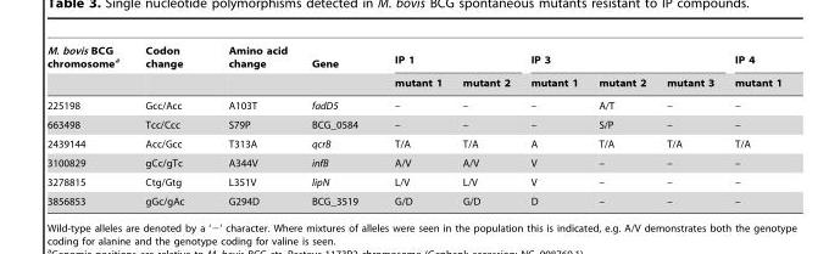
<table><thead><tr><td rowspan="2">M. bovis BCG chromosome<sup>a</sup></td><td rowspan="2">Codon change</td><td rowspan="2">Amino acid change</td><td rowspan="2">Gene</td><td colspan="2">IP 1</td><td colspan="3">IP 3</td><td rowspan="2">IP 4 mutant 1</td></tr><tr><td>mutant 1</td><td>mutant 2</td><td>mutant 1</td><td>mutant 2</td><td>mutant 3</td></tr></thead><tbody><tr><td>225198</td><td>Gcc/Acc</td><td>A103T</td><td>fadD5</td><td>–</td><td>–</td><td>–</td><td>A/T</td><td>–</td><td>–</td></tr><tr><td>663498</td><td>Tcc/Ccc</td><td>S79P</td><td>BCG_0584</td><td>–</td><td>–</td><td>–</td><td>S/P</td><td>–</td><td>–</td></tr><tr><td>2439144</td><td>Acc/Gcc</td><td>T313A</td><td>qcrB</td><td>T/A</td><td>T/A</td><td>A</td><td>T/A</td><td>T/A</td><td>T/A</td></tr><tr><td>3100829</td><td>gCc/gTc</td><td>A344V</td><td>infB</td><td>A/V</td><td>A/V</td><td>V</td><td>–</td><td>–</td><td>–</td></tr><tr><td>3278815</td><td>Ctg/Gtg</td><td>L351V</td><td>lipN</td><td>L/V</td><td>L/V</td><td>V</td><td>–</td><td>–</td><td>–</td></tr><tr><td>3856853</td><td>gGc/gAc</td><td>G294D</td><td>BCG_3519</td><td>G/D</td><td>G/D</td><td>D</td><td>–</td><td>–</td><td>–</td></tr></tbody></table>